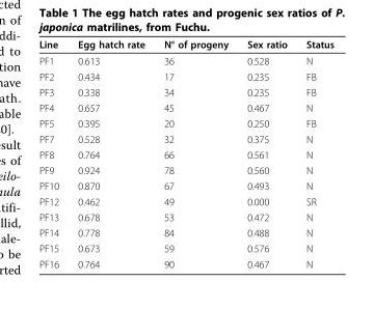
<table><thead><tr><td>Line</td><td>Egg hatch rate</td><td>N° of progeny</td><td>Sex ratio</td><td>Status</td></tr></thead><tbody><tr><td>PF1</td><td>0.613</td><td>36</td><td>0.528</td><td>N</td></tr><tr><td>PF2</td><td>0.434</td><td>17</td><td>0.235</td><td>FB</td></tr><tr><td>PF3</td><td>0.338</td><td>34</td><td>0.235</td><td>FB</td></tr><tr><td>PF4</td><td>0.657</td><td>45</td><td>0.467</td><td>N</td></tr><tr><td>PF5</td><td>0.395</td><td>20</td><td>0.250</td><td>FB</td></tr><tr><td>PF7</td><td>0.528</td><td>32</td><td>0.375</td><td>N</td></tr><tr><td>PF8</td><td>0.764</td><td>66</td><td>0.561</td><td>N</td></tr><tr><td>PF9</td><td>0.924</td><td>78</td><td>0.560</td><td>N</td></tr><tr><td>PF10</td><td>0.870</td><td>67</td><td>0.493</td><td>N</td></tr><tr><td>PF12</td><td>0.462</td><td>49</td><td>0.000</td><td>SR</td></tr><tr><td>PF13</td><td>0.678</td><td>53</td><td>0.472</td><td>N</td></tr><tr><td>PF14</td><td>0.778</td><td>84</td><td>0.488</td><td>N</td></tr><tr><td>PF15</td><td>0.673</td><td>59</td><td>0.576</td><td>N</td></tr><tr><td>PF16</td><td>0.764</td><td>90</td><td>0.467</td><td>N</td></tr></tbody></table>